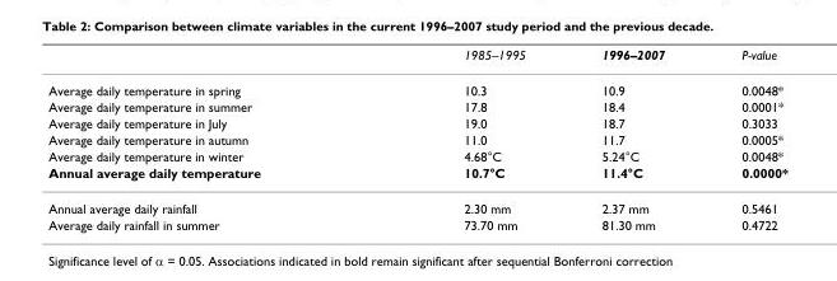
<table><thead><tr><td></td><td>1985–1995</td><td>1996–2007</td><td>P-value</td></tr></thead><tbody><tr><td>Average daily temperature in spring</td><td>10.3</td><td>10.9</td><td>0.0048*</td></tr><tr><td>Average daily temperature in summer</td><td>17.8</td><td>18.4</td><td>0.0001*</td></tr><tr><td>Average daily temperature in July</td><td>19.0</td><td>18.7</td><td>0.3033</td></tr><tr><td>Average daily temperature in autumn</td><td>11.0</td><td>11.7</td><td>0.0005*</td></tr><tr><td>Average daily temperature in winter</td><td>4.68°C</td><td>5.24°C</td><td>0.0048*</td></tr><tr><td>Annual average daily temperature</td><td>10.7°C</td><td>11.4°C</td><td>0.0000*</td></tr><tr><td>Annual average daily rainfall</td><td>2.30 mm</td><td>2.37 mm</td><td>0.5461</td></tr><tr><td>Average daily rainfall in summer</td><td>73.70 mm</td><td>81.30 mm</td><td>0.4722</td></tr></tbody></table>